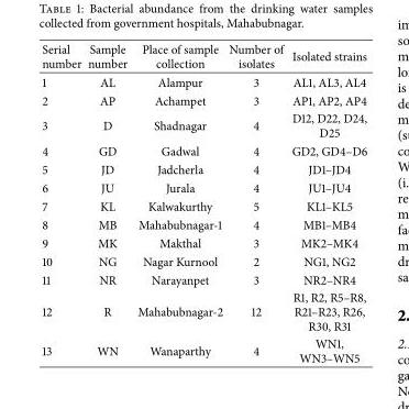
<table><thead><tr><td>Serial number</td><td>Sample number</td><td>Place of sample collection</td><td>Number of isolates</td><td>Isolated strains</td></tr></thead><tbody><tr><td>1</td><td>AL</td><td>Alampur</td><td>3</td><td>AL1, AL3, AL4</td></tr><tr><td>2</td><td>AP</td><td>Achampet</td><td>3</td><td>AP1, AP2, AP4</td></tr><tr><td>3</td><td>D</td><td>Shadnagar</td><td>4</td><td>D12, D22, D24, D25</td></tr><tr><td>4</td><td>GD</td><td>Gadwal</td><td>4</td><td>GD2, GD4–D6</td></tr><tr><td>5</td><td>JD</td><td>Jadcherla</td><td>4</td><td>JD1–JD4</td></tr><tr><td>6</td><td>JU</td><td>Jurala</td><td>4</td><td>JU1–JU4</td></tr><tr><td>7</td><td>KL</td><td>Kalwakurthy</td><td>5</td><td>KL1–KL5</td></tr><tr><td>8</td><td>MB</td><td>Mahabubnagar-1</td><td>4</td><td>MB1–MB4</td></tr><tr><td>9</td><td>MK</td><td>Makthal</td><td>3</td><td>MK2–MK4</td></tr><tr><td>10</td><td>NG</td><td>Nagar Kurnool</td><td>2</td><td>NG1, NG2</td></tr><tr><td>11</td><td>NR</td><td>Narayanpet</td><td>3</td><td>NR2–NR4</td></tr><tr><td>12</td><td>R</td><td>Mahabubnagar-2</td><td>12</td><td>R1, R2, R5–R8, R21–R23, R26, R30, R31</td></tr><tr><td>13</td><td>WN</td><td>Wanaparthy</td><td>4</td><td>WN1, WN3–WN5</td></tr></tbody></table>